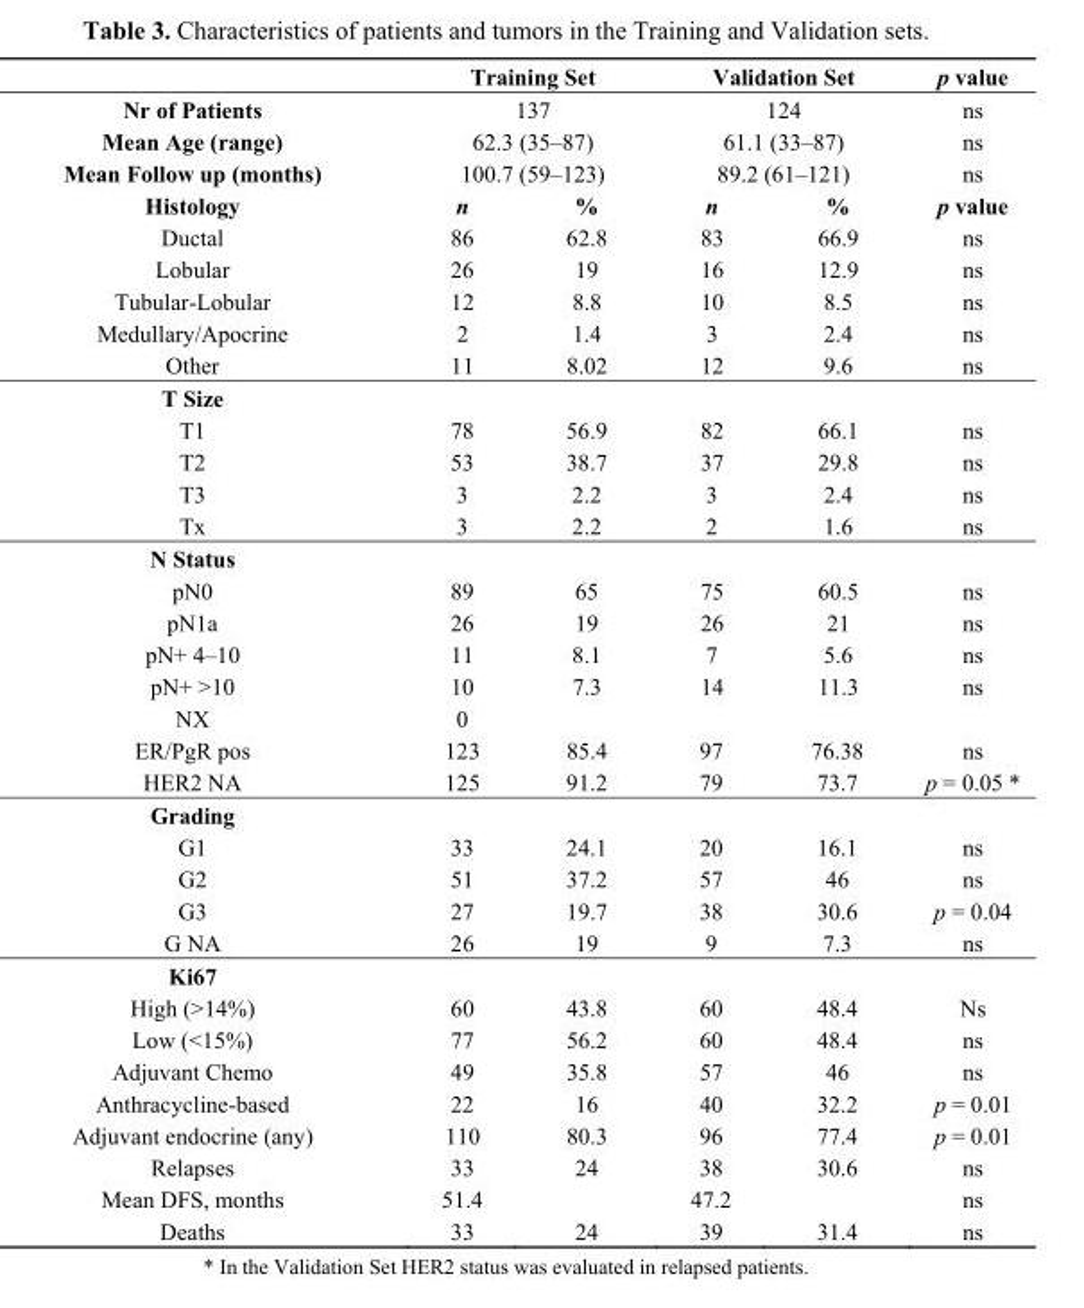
<table><thead><tr><td></td><td colspan="2">Training Set</td><td colspan="2">Validation Set</td><td>p value</td></tr></thead><tbody><tr><td>Nr of Patients</td><td colspan="2">137</td><td colspan="2">124</td><td>ns</td></tr><tr><td>Mean Age (range)</td><td colspan="2">62.3 (35–87)</td><td colspan="2">61.1 (33–87)</td><td>ns</td></tr><tr><td>Mean Follow up (months)</td><td colspan="2">100.7 (59–123)</td><td colspan="2">89.2 (61–121)</td><td>ns</td></tr><tr><td>Histology</td><td>n</td><td>%</td><td>n</td><td>%</td><td>p value</td></tr><tr><td>Ductal</td><td>86</td><td>62.8</td><td>83</td><td>66.9</td><td>ns</td></tr><tr><td>Lobular</td><td>26</td><td>19</td><td>16</td><td>12.9</td><td>ns</td></tr><tr><td>Tubular-Lobular</td><td>12</td><td>8.8</td><td>10</td><td>8.5</td><td>ns</td></tr><tr><td>Medullary/Apocrine</td><td>2</td><td>1.4</td><td>3</td><td>2.4</td><td>ns</td></tr><tr><td>Other</td><td>11</td><td>8.02</td><td>12</td><td>9.6</td><td>ns</td></tr><tr><td colspan="6">T Size</td></tr><tr><td>T1</td><td>78</td><td>56.9</td><td>82</td><td>66.1</td><td>ns</td></tr><tr><td>T2</td><td>53</td><td>38.7</td><td>37</td><td>29.8</td><td>ns</td></tr><tr><td>T3</td><td>3</td><td>2.2</td><td>3</td><td>2.4</td><td>ns</td></tr><tr><td>Tx</td><td>3</td><td>2.2</td><td>2</td><td>1.6</td><td>ns</td></tr><tr><td colspan="6">N Status</td></tr><tr><td>pN0</td><td>89</td><td>65</td><td>75</td><td>60.5</td><td>ns</td></tr><tr><td>pN1a</td><td>26</td><td>19</td><td>26</td><td>21</td><td>ns</td></tr><tr><td>pN+ 4–10</td><td>11</td><td>8.1</td><td>7</td><td>5.6</td><td>ns</td></tr><tr><td>pN+ &gt;10</td><td>10</td><td>7.3</td><td>14</td><td>11.3</td><td>ns</td></tr><tr><td>NX</td><td>0</td><td></td><td></td><td></td><td></td></tr><tr><td>ER/PgR pos</td><td>123</td><td>85.4</td><td>97</td><td>76.38</td><td>ns</td></tr><tr><td>HER2 NA</td><td>125</td><td>91.2</td><td>79</td><td>73.7</td><td>p = 0.05 *</td></tr><tr><td colspan="6">Grading</td></tr><tr><td>G1</td><td>33</td><td>24.1</td><td>20</td><td>16.1</td><td>ns</td></tr><tr><td>G2</td><td>51</td><td>37.2</td><td>57</td><td>46</td><td>ns</td></tr><tr><td>G3</td><td>27</td><td>19.7</td><td>38</td><td>30.6</td><td>p = 0.04</td></tr><tr><td>G NA</td><td>26</td><td>19</td><td>9</td><td>7.3</td><td>ns</td></tr><tr><td colspan="6">Ki67</td></tr><tr><td>High (&gt;14%)</td><td>60</td><td>43.8</td><td>60</td><td>48.4</td><td>Ns</td></tr><tr><td>Low (&lt;15%)</td><td>77</td><td>56.2</td><td>60</td><td>48.4</td><td>ns</td></tr><tr><td>Adjuvant Chemo</td><td>49</td><td>35.8</td><td>57</td><td>46</td><td>ns</td></tr><tr><td>Anthracycline-based</td><td>22</td><td>16</td><td>40</td><td>32.2</td><td>p = 0.01</td></tr><tr><td>Adjuvant endocrine (any)</td><td>110</td><td>80.3</td><td>96</td><td>77.4</td><td>p = 0.01</td></tr><tr><td>Relapses</td><td>33</td><td>24</td><td>38</td><td>30.6</td><td>ns</td></tr><tr><td>Mean DFS, months</td><td>51.4</td><td></td><td>47.2</td><td></td><td>ns</td></tr><tr><td>Deaths</td><td>33</td><td>24</td><td>39</td><td>31.4</td><td>ns</td></tr></tbody></table>